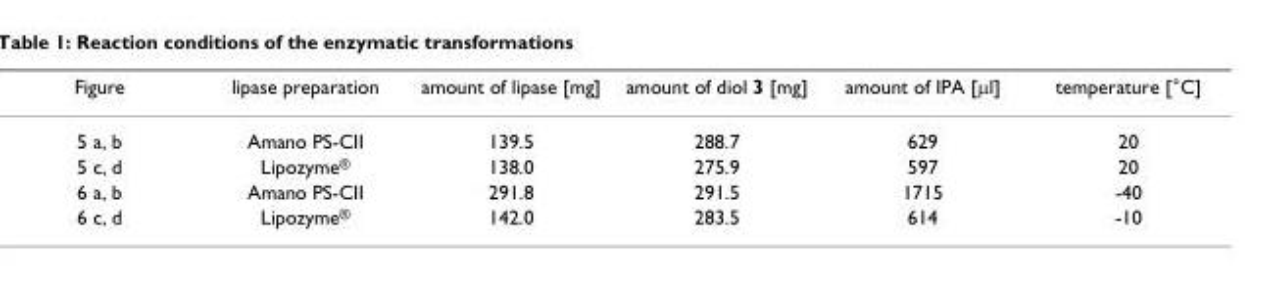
<table><thead><tr><td>Figure</td><td>lipase preparation</td><td>amount of lipase [mg]</td><td>amount of diol 3 [mg]</td><td>amount of IPA [µl]</td><td>temperature [°C]</td></tr></thead><tbody><tr><td>5 a, b</td><td>Amano PS-CII</td><td>139.5</td><td>288.7</td><td>629</td><td>20</td></tr><tr><td>5 c, d</td><td>Lipozyme<sup>®</sup></td><td>138.0</td><td>275.9</td><td>597</td><td>20</td></tr><tr><td>6 a, b</td><td>Amano PS-CII</td><td>291.8</td><td>291.5</td><td>1715</td><td>-40</td></tr><tr><td>6 c, d</td><td>Lipozyme<sup>®</sup></td><td>142.0</td><td>283.5</td><td>614</td><td>-10</td></tr></tbody></table>